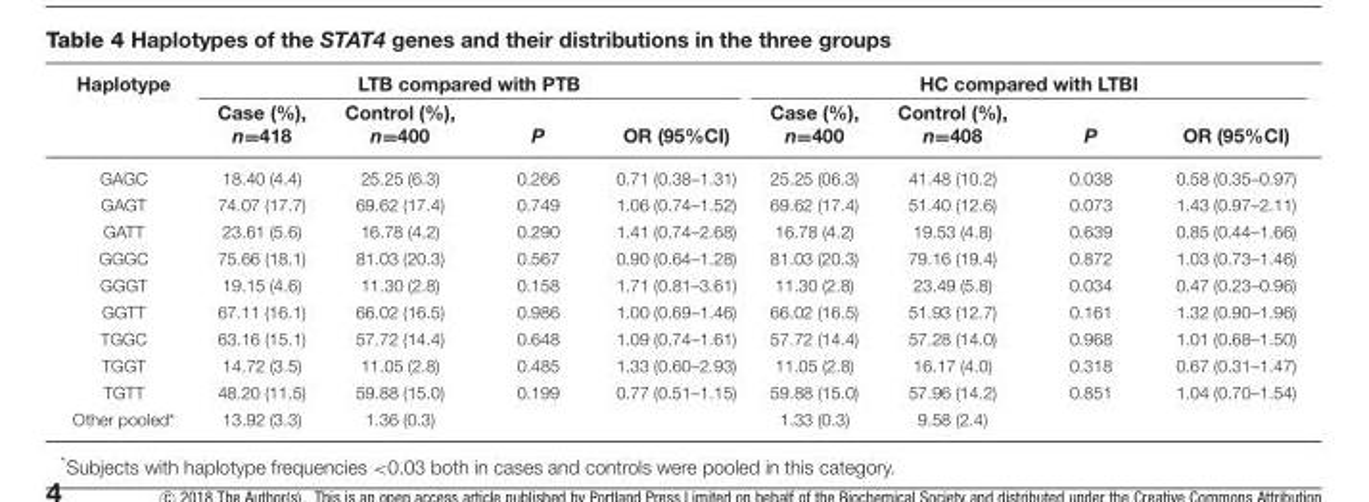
<table><thead><tr><td rowspan="2">Haplotype</td><td colspan="4">LTB compared with PTB</td><td colspan="4">HC compared with LTBI</td></tr><tr><td>Case (%), n=418</td><td>Control (%), n=400</td><td>P</td><td>OR (95%CI)</td><td>Case (%), n=400</td><td>Control (%), n=408</td><td>P</td><td>OR (95%CI)</td></tr></thead><tbody><tr><td>GAGC</td><td>18.40 (4.4)</td><td>25.25 (6.3)</td><td>0.266</td><td>0.71 (0.38–1.31)</td><td>25.25 (06.3)</td><td>41.48 (10.2)</td><td>0.038</td><td>0.58 (0.35–0.97)</td></tr><tr><td>GAGT</td><td>74.07 (17.7)</td><td>69.62 (17.4)</td><td>0.749</td><td>1.06 (0.74–1.52)</td><td>69.62 (17.4)</td><td>51.40 (12.6)</td><td>0.073</td><td>1.43 (0.97–2.11)</td></tr><tr><td>GATT</td><td>23.61 (5.6)</td><td>16.78 (4.2)</td><td>0.290</td><td>1.41 (0.74–2.68)</td><td>16.78 (4.2)</td><td>19.53 (4.8)</td><td>0.639</td><td>0.85 (0.44–1.66)</td></tr><tr><td>GGGC</td><td>75.66 (18.1)</td><td>81.03 (20.3)</td><td>0.567</td><td>0.90 (0.64–1.28)</td><td>81.03 (20.3)</td><td>79.16 (19.4)</td><td>0.872</td><td>1.03 (0.73–1.46)</td></tr><tr><td>GGGT</td><td>19.15 (4.6)</td><td>11.30 (2.8)</td><td>0.158</td><td>1.71 (0.81–3.61)</td><td>11.30 (2.8)</td><td>23.49 (5.8)</td><td>0.034</td><td>0.47 (0.23–0.96)</td></tr><tr><td>GGTT</td><td>67.11 (16.1)</td><td>66.02 (16.5)</td><td>0.986</td><td>1.00 (0.69–1.46)</td><td>66.02 (16.5)</td><td>51.93 (12.7)</td><td>0.161</td><td>1.32 (0.90–1.96)</td></tr><tr><td>TGGC</td><td>63.16 (15.1)</td><td>57.72 (14.4)</td><td>0.648</td><td>1.09 (0.74–1.61)</td><td>57.72 (14.4)</td><td>57.28 (14.0)</td><td>0.968</td><td>1.01 (0.68–1.50)</td></tr><tr><td>TGGT</td><td>14.72 (3.5)</td><td>11.05 (2.8)</td><td>0.485</td><td>1.33 (0.60–2.93)</td><td>11.05 (2.8)</td><td>16.17 (4.0)</td><td>0.318</td><td>0.67 (0.31–1.47)</td></tr><tr><td>TGTT</td><td>48.20 (11.5)</td><td>59.88 (15.0)</td><td>0.199</td><td>0.77 (0.51–1.15)</td><td>59.88 (15.0)</td><td>57.96 (14.2)</td><td>0.851</td><td>1.04 (0.70–1.54)</td></tr><tr><td>Other pooled*</td><td>13.92 (3.3)</td><td>1.36 (0.3)</td><td></td><td></td><td>1.33 (0.3)</td><td>9.58 (2.4)</td><td></td><td></td></tr></tbody></table>